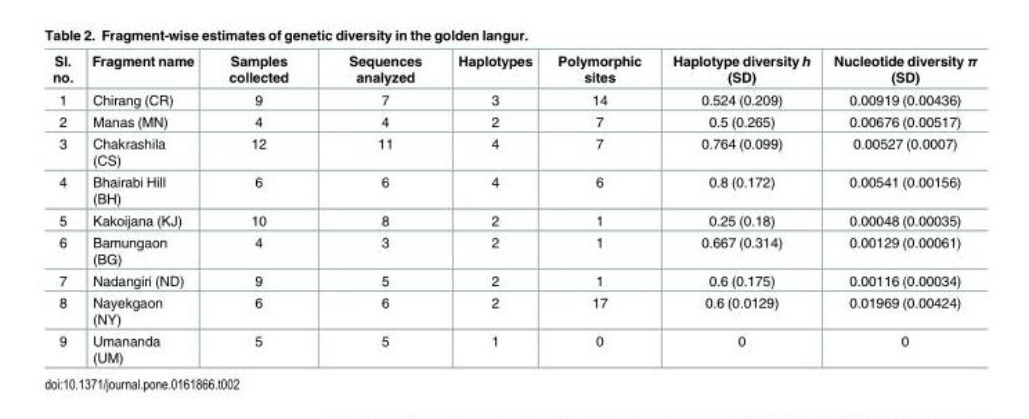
<table><thead><tr><td>Sl. no.</td><td>Fragment name</td><td>Samples collected</td><td>Sequences analyzed</td><td>Haplotypes</td><td>Polymorphic sites</td><td>Haplotype diversity h (SD)</td><td>Nucleotide diversity π (SD)</td></tr></thead><tbody><tr><td>1</td><td>Chirang (CR)</td><td>9</td><td>7</td><td>3</td><td>14</td><td>0.524 (0.209)</td><td>0.00919 (0.00436)</td></tr><tr><td>2</td><td>Manas (MN)</td><td>4</td><td>4</td><td>2</td><td>7</td><td>0.5 (0.265)</td><td>0.00676 (0.00517)</td></tr><tr><td>3</td><td>Chakrashila (CS)</td><td>12</td><td>11</td><td>4</td><td>7</td><td>0.764 (0.099)</td><td>0.00527 (0.0007)</td></tr><tr><td>4</td><td>Bhairabi Hill (BH)</td><td>6</td><td>6</td><td>4</td><td>6</td><td>0.8 (0.172)</td><td>0.00541 (0.00156)</td></tr><tr><td>5</td><td>Kakoijana (KJ)</td><td>10</td><td>8</td><td>2</td><td>1</td><td>0.25 (0.18)</td><td>0.00048 (0.00035)</td></tr><tr><td>6</td><td>Bamungaon (BG)</td><td>4</td><td>3</td><td>2</td><td>1</td><td>0.667 (0.314)</td><td>0.00129 (0.00061)</td></tr><tr><td>7</td><td>Nadangiri (ND)</td><td>9</td><td>5</td><td>2</td><td>1</td><td>0.6 (0.175)</td><td>0.00116 (0.00034)</td></tr><tr><td>8</td><td>Nayekgaon (NY)</td><td>6</td><td>6</td><td>2</td><td>17</td><td>0.6 (0.0129)</td><td>0.01969 (0.00424)</td></tr><tr><td>9</td><td>Umananda (UM)</td><td>5</td><td>5</td><td>1</td><td>0</td><td>0</td><td>0</td></tr></tbody></table>